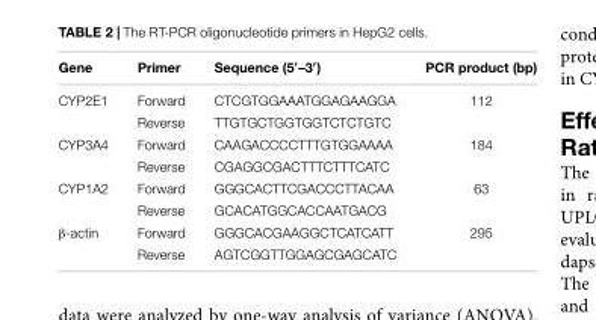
<table><thead><tr><td>Gene</td><td>Primer</td><td>Sequence (5′–3′)</td><td>PCR product (bp)</td></tr></thead><tbody><tr><td rowspan="2">CYP2E1</td><td>Forward</td><td>CTCGTGGAAATGGAGAAGGA</td><td>112</td></tr><tr><td>Reverse</td><td>TTGTGCTGGTGGTCTCTGTC</td><td></td></tr><tr><td rowspan="2">CYP3A4</td><td>Forward</td><td>CAAGACCCCTTTGTGGAAAA</td><td>184</td></tr><tr><td>Reverse</td><td>CGAGGCGACTTTCTTTCATC</td><td></td></tr><tr><td rowspan="2">CYP1A2</td><td>Forward</td><td>GGGCACTTCGACCCTTACAA</td><td>63</td></tr><tr><td>Reverse</td><td>GCACATGGCACCAATGACG</td><td></td></tr><tr><td rowspan="2">β-actin</td><td>Forward</td><td>GGGCACGAAGGCTCATCATT</td><td>295</td></tr><tr><td>Reverse</td><td>AGTCGGTTGGAGCGAGCATC</td><td></td></tr></tbody></table>